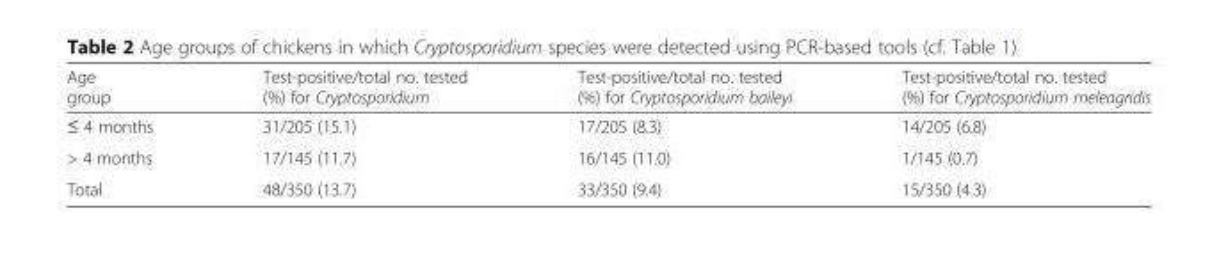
<table><thead><tr><td>Age group</td><td>Test-positive/total no. tested (%) for Cryptosporidium</td><td>Test-positive/total no. tested (%) for Cryptosporidium baileyi</td><td>Test-positive/total no. tested (%) for Cryptosporidium meleagridis</td></tr></thead><tbody><tr><td>≤ 4 months</td><td>31/205 (15.1)</td><td>17/205 (8.3)</td><td>14/205 (6.8)</td></tr><tr><td>&gt; 4 months</td><td>17/145 (11.7)</td><td>16/145 (11.0)</td><td>1/145 (0.7)</td></tr><tr><td>Total</td><td>48/350 (13.7)</td><td>33/350 (9.4)</td><td>15/350 (4.3)</td></tr></tbody></table>